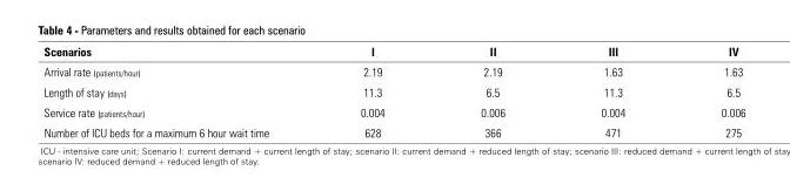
<table><thead><tr><td>Scenarios</td><td>I</td><td>II</td><td>III</td><td>IV</td></tr></thead><tbody><tr><td>Arrival rate (patients/hour)</td><td>2.19</td><td>2.19</td><td>1.63</td><td>1.63</td></tr><tr><td>Length of stay (days)</td><td>11.3</td><td>6.5</td><td>11.3</td><td>6.5</td></tr><tr><td>Service rate (patients/hour)</td><td>0.004</td><td>0.006</td><td>0.004</td><td>0.006</td></tr><tr><td>Number of ICU beds for a maximum 6 hour wait time</td><td>628</td><td>366</td><td>471</td><td>275</td></tr></tbody></table>